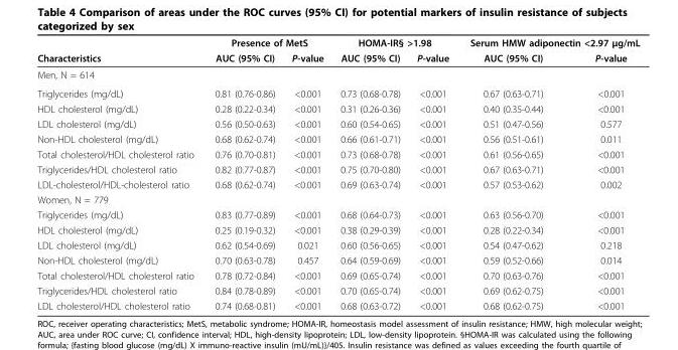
<table><thead><tr><td rowspan="2">Characteristics</td><td colspan="2">Presence of MetS</td><td colspan="2">HOMA-IR§ &gt;1.98</td><td colspan="2">Serum HMW adiponectin &lt;2.97 μg/mL</td></tr><tr><td>AUC (95% CI)</td><td>P-value</td><td>AUC (95% CI)</td><td>P-value</td><td>AUC (95% CI)</td><td>P-value</td></tr></thead><tbody><tr><td colspan="7">Men, N = 614</td></tr><tr><td>Triglycerides (mg/dL)</td><td>0.81 (0.76-0.86)</td><td>&lt;0.001</td><td>0.73 (0.68-0.78)</td><td>&lt;0.001</td><td>0.67 (0.63-0.71)</td><td>&lt;0.001</td></tr><tr><td>HDL cholesterol (mg/dL)</td><td>0.28 (0.22-0.34)</td><td>&lt;0.001</td><td>0.31 (0.26-0.36)</td><td>&lt;0.001</td><td>0.40 (0.35-0.44)</td><td>&lt;0.001</td></tr><tr><td>LDL cholesterol (mg/dL)</td><td>0.56 (0.50-0.63)</td><td>&lt;0.001</td><td>0.60 (0.54-0.65)</td><td>&lt;0.001</td><td>0.51 (0.47-0.56)</td><td>0.577</td></tr><tr><td>Non-HDL cholesterol (mg/dL)</td><td>0.68 (0.62-0.74)</td><td>&lt;0.001</td><td>0.66 (0.61-0.71)</td><td>&lt;0.001</td><td>0.56 (0.51-0.61)</td><td>0.011</td></tr><tr><td>Total cholesterol/HDL cholesterol ratio</td><td>0.76 (0.70-0.81)</td><td>&lt;0.001</td><td>0.73 (0.68-0.78)</td><td>&lt;0.001</td><td>0.61 (0.56-0.65)</td><td>&lt;0.001</td></tr><tr><td>Triglycerides/HDL cholesterol ratio</td><td>0.82 (0.77-0.87)</td><td>&lt;0.001</td><td>0.75 (0.70-0.80)</td><td>&lt;0.001</td><td>0.67 (0.63-0.71)</td><td>&lt;0.001</td></tr><tr><td>LDL-cholesterol/HDL-cholesterol ratio</td><td>0.68 (0.62-0.74)</td><td>&lt;0.001</td><td>0.69 (0.63-0.74)</td><td>&lt;0.001</td><td>0.57 (0.53-0.62)</td><td>0.002</td></tr><tr><td colspan="7">Women, N = 779</td></tr><tr><td>Triglycerides (mg/dL)</td><td>0.83 (0.77-0.89)</td><td>&lt;0.001</td><td>0.68 (0.64-0.73)</td><td>&lt;0.001</td><td>0.63 (0.56-0.70)</td><td>&lt;0.001</td></tr><tr><td>HDL cholesterol (mg/dL)</td><td>0.25 (0.19-0.32)</td><td>&lt;0.001</td><td>0.38 (0.29-0.39)</td><td>&lt;0.001</td><td>0.28 (0.22-0.34)</td><td>&lt;0.001</td></tr><tr><td>LDL cholesterol (mg/dL)</td><td>0.62 (0.54-0.69)</td><td>0.021</td><td>0.60 (0.56-0.65)</td><td>&lt;0.001</td><td>0.54 (0.47-0.62)</td><td>0.218</td></tr><tr><td>Non-HDL cholesterol (mg/dL)</td><td>0.70 (0.63-0.78)</td><td>0.457</td><td>0.64 (0.59-0.69)</td><td>&lt;0.001</td><td>0.59 (0.52-0.66)</td><td>0.014</td></tr><tr><td>Total cholesterol/HDL cholesterol ratio</td><td>0.78 (0.72-0.84)</td><td>&lt;0.001</td><td>0.69 (0.65-0.74)</td><td>&lt;0.001</td><td>0.70 (0.63-0.76)</td><td>&lt;0.001</td></tr><tr><td>Triglycerides/HDL cholesterol ratio</td><td>0.84 (0.78-0.89)</td><td>&lt;0.001</td><td>0.70 (0.65-0.74)</td><td>&lt;0.001</td><td>0.69 (0.62-0.75)</td><td>&lt;0.001</td></tr><tr><td>LDL cholesterol/HDL cholesterol ratio</td><td>0.74 (0.68-0.81)</td><td>&lt;0.001</td><td>0.68 (0.63-0.72)</td><td>&lt;0.001</td><td>0.68 (0.62-0.75)</td><td>&lt;0.001</td></tr></tbody></table>